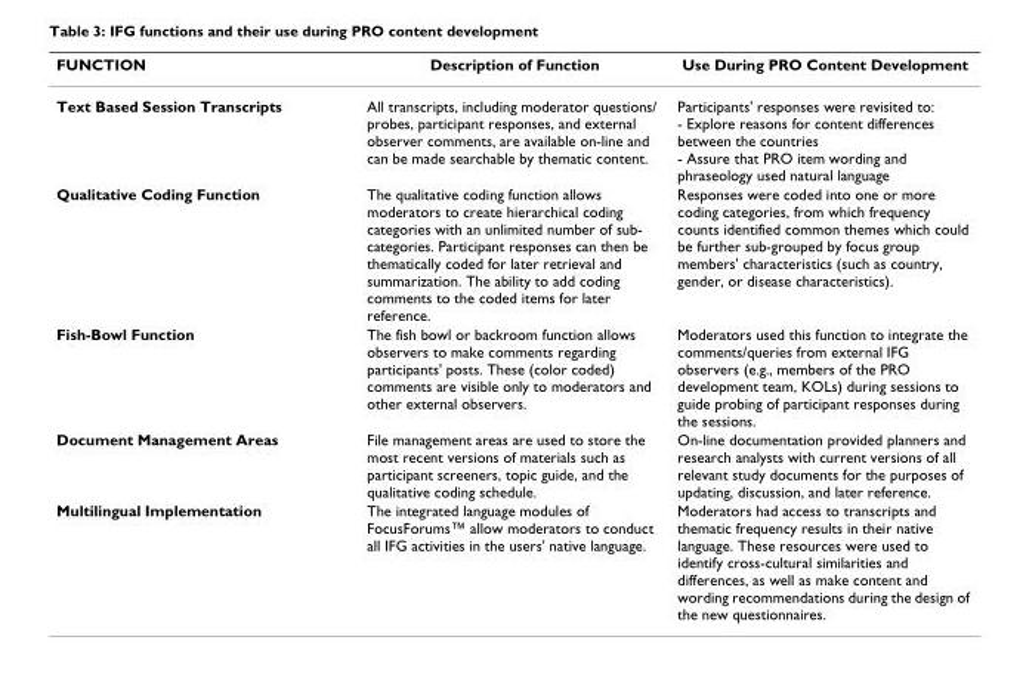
<table><thead><tr><td>FUNCTION</td><td>Description of Function</td><td>Use During PRO Content Development</td></tr></thead><tbody><tr><td>Text Based Session Transcripts</td><td>All transcripts, including moderator questions/ probes, participant responses, and external observer comments, are available on-line and can be made searchable by thematic content.</td><td>Participants&#x27; responses were revisited to: - Explore reasons for content differences between the countries - Assure that PRO item wording and phraseology used natural language</td></tr><tr><td>Qualitative Coding Function</td><td>The qualitative coding function allows moderators to create hierarchical coding categories with an unlimited number of sub- categories. Participant responses can then be thematically coded for later retrieval and summarization. The ability to add coding comments to the coded items for later reference.</td><td>Responses were coded into one or more coding categories, from which frequency counts identified common themes which could be further sub-grouped by focus group members&#x27; characteristics (such as country, gender, or disease characteristics).</td></tr><tr><td>Fish-Bowl Function</td><td>The fish bowl or backroom function allows observers to make comments regarding participants&#x27; posts. These (color coded) comments are visible only to moderators and other external observers.</td><td>Moderators used this function to integrate the comments/queries from external IFG observers (e.g., members of the PRO development team, KOLs) during sessions to guide probing of participant responses during the sessions.</td></tr><tr><td>Document Management Areas</td><td>File management areas are used to store the most recent versions of materials such as participant screeners, topic guide, and the qualitative coding schedule.</td><td>On-line documentation provided planners and research analysts with current versions of all relevant study documents for the purposes of updating, discussion, and later reference.</td></tr><tr><td>Multilingual Implementation</td><td>The integrated language modules of FocusForums™ allow moderators to conduct all IFG activities in the users&#x27; native language.</td><td>Moderators had access to transcripts and thematic frequency results in their native language. These resources were used to identify cross-cultural similarities and differences, as well as make content and wording recommendations during the design of the new questionnaires.</td></tr></tbody></table>